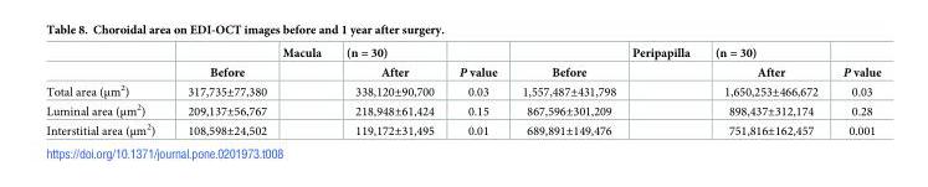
<table><thead><tr><td rowspan="2"></td><td rowspan="2">Before</td><td rowspan="2">Macula</td><td rowspan="2">(n = 30) After</td><td rowspan="2">P value</td><td rowspan="2">Before</td><td rowspan="2">Peripapilla</td><td rowspan="2">(n = 30) After</td><td rowspan="2">P value</td></tr><tr></tr></thead><tbody><tr><td>Total area (μm<sup>2</sup>)</td><td>317,735±77,380</td><td></td><td>338,120±90,700</td><td>0.03</td><td>1,557,487±431,798</td><td></td><td>1,650,253±466,672</td><td>0.03</td></tr><tr><td>Luminal area (μm<sup>2</sup>)</td><td>209,137±56,767</td><td></td><td>218,948±61,424</td><td>0.15</td><td>867,596±301,209</td><td></td><td>898,437±312,174</td><td>0.28</td></tr><tr><td>Interstitial area (μm<sup>2</sup>)</td><td>108,598±24,502</td><td></td><td>119,172±31,495</td><td>0.01</td><td>689,891±149,476</td><td></td><td>751,816±162,457</td><td>0.001</td></tr></tbody></table>